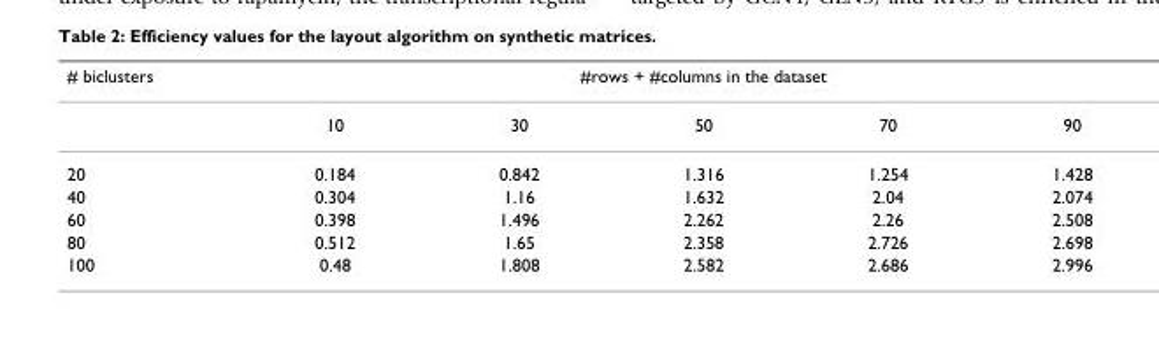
<table><thead><tr><td rowspan="2"># biclusters</td><td colspan="5">#rows + #columns in the dataset</td></tr><tr><td>10</td><td>30</td><td>50</td><td>70</td><td>90</td></tr></thead><tbody><tr><td>20</td><td>0.184</td><td>0.842</td><td>1.316</td><td>1.254</td><td>1.428</td></tr><tr><td>40</td><td>0.304</td><td>1.16</td><td>1.632</td><td>2.04</td><td>2.074</td></tr><tr><td>60</td><td>0.398</td><td>1.496</td><td>2.262</td><td>2.26</td><td>2.508</td></tr><tr><td>80</td><td>0.512</td><td>1.65</td><td>2.358</td><td>2.726</td><td>2.698</td></tr><tr><td>100</td><td>0.48</td><td>1.808</td><td>2.582</td><td>2.686</td><td>2.996</td></tr></tbody></table>